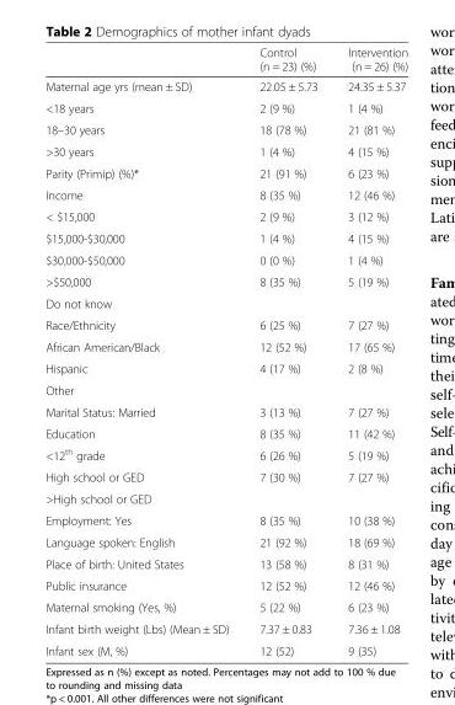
<table><thead><tr><td></td><td>Control (n = 23) (%)</td><td>Intervention (n = 26) (%)</td></tr></thead><tbody><tr><td>Maternal age yrs (mean ± SD)</td><td>22.05 ± 5.73</td><td>24.35 ± 5.37</td></tr><tr><td>&lt;18 years</td><td>2 (9 %)</td><td>1 (4 %)</td></tr><tr><td>18–30 years</td><td>18 (78 %)</td><td>21 (81 %)</td></tr><tr><td>&gt;30 years</td><td>1 (4 %)</td><td>4 (15 %)</td></tr><tr><td>Parity (Primip) (%)*</td><td>21 (91 %)</td><td>6 (23 %)</td></tr><tr><td>Income</td><td>8 (35 %)</td><td>12 (46 %)</td></tr><tr><td>&lt; $15,000</td><td>2 (9 %)</td><td>3 (12 %)</td></tr><tr><td>$15,000-$30,000</td><td>1 (4 %)</td><td>4 (15 %)</td></tr><tr><td>$30,000-$50,000</td><td>0 (0 %)</td><td>1 (4 %)</td></tr><tr><td>&gt;$50,000</td><td rowspan="2">8 (35 %)</td><td rowspan="2">5 (19 %)</td></tr><tr><td>Do not know</td></tr><tr><td>Race/Ethnicity</td><td>6 (25 %)</td><td>7 (27 %)</td></tr><tr><td>African American/Black</td><td>12 (52 %)</td><td>17 (65 %)</td></tr><tr><td>Hispanic</td><td>4 (17 %)</td><td>2 (8 %)</td></tr><tr><td colspan="3">Other</td></tr><tr><td>Marital Status: Married</td><td>3 (13 %)</td><td>7 (27 %)</td></tr><tr><td>Education</td><td>8 (35 %)</td><td>11 (42 %)</td></tr><tr><td>&lt;12<sup>th</sup> grade</td><td>6 (26 %)</td><td>5 (19 %)</td></tr><tr><td>High school or GED</td><td>7 (30 %)</td><td>7 (27 %)</td></tr><tr><td colspan="3">&gt;High school or GED</td></tr><tr><td>Employment: Yes</td><td>8 (35 %)</td><td>10 (38 %)</td></tr><tr><td>Language spoken: English</td><td>21 (92 %)</td><td>18 (69 %)</td></tr><tr><td>Place of birth: United States</td><td>13 (58 %)</td><td>8 (31 %)</td></tr><tr><td>Public insurance</td><td>12 (52 %)</td><td>12 (46 %)</td></tr><tr><td>Maternal smoking (Yes, %)</td><td>5 (22 %)</td><td>6 (23 %)</td></tr><tr><td>Infant birth weight (Lbs) (Mean ± SD)</td><td>7.37 ± 0.83</td><td>7.36 ± 1.08</td></tr><tr><td>Infant sex (M, %)</td><td>12 (52)</td><td>9 (35)</td></tr></tbody></table>